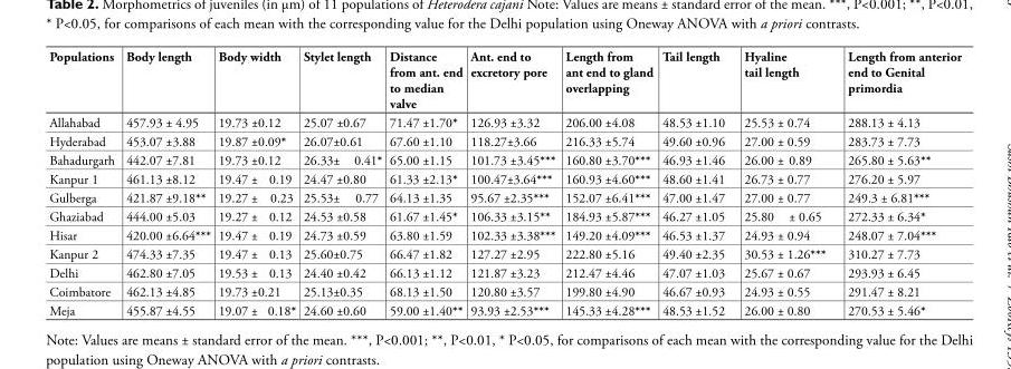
<table><thead><tr><td>Populations</td><td>Body length</td><td>Body width</td><td>Stylet length</td><td>Distance from ant. end to median valve</td><td>Ant. end to excretory pore</td><td>Length from ant end to gland overlapping</td><td>Tail length</td><td>Hyaline tail length</td><td>Length from anterior end to Genital primordia</td></tr></thead><tbody><tr><td>Allahabad</td><td>457.93 ± 4.95</td><td>19.73 ±0.12</td><td>25.07 ±0.67</td><td>71.47 ±1.70*</td><td>126.93 ±3.32</td><td>206.00 ±4.08</td><td>48.53 ±1.10</td><td>25.53 ± 0.74</td><td>288.13 ± 4.13</td></tr><tr><td>Hyderabad</td><td>453.07 ±3.88</td><td>19.87 ±0.09*</td><td>26.07±0.61</td><td>67.60 ±1.10</td><td>118.27±3.66</td><td>216.33 ±5.74</td><td>49.60 ±0.96</td><td>27.00 ± 0.59</td><td>283.73 ± 7.73</td></tr><tr><td>Bahadurgarh</td><td>442.07 ±7.81</td><td>19.73 ±0.12</td><td>26.33± 0.41*</td><td>65.00 ±1.15</td><td>101.73 ±3.45***</td><td>160.80 ±3.70***</td><td>46.93 ±1.46</td><td>26.00 ± 0.89</td><td>265.80 ± 5.63**</td></tr><tr><td>Kanpur 1</td><td>461.13 ±8.12</td><td>19.47 ± 0.19</td><td>24.47 ±0.80</td><td>61.33 ±2.13*</td><td>100.47±3.64***</td><td>160.93 ±4.60***</td><td>48.60 ±1.41</td><td>26.73 ± 0.77</td><td>276.20 ± 5.97</td></tr><tr><td>Gulberga</td><td>421.87 ±9.18**</td><td>19.27 ± 0.23</td><td>25.53± 0.77</td><td>64.13 ±1.35</td><td>95.67 ±2.35***</td><td>152.07 ±6.41***</td><td>47.00 ±1.47</td><td>27.00 ± 0.77</td><td>249.3 ± 6.81***</td></tr><tr><td>Ghaziabad</td><td>444.00 ±5.03</td><td>19.27 ± 0.12</td><td>24.53 ±0.58</td><td>61.67 ±1.45*</td><td>106.33 ±3.15**</td><td>184.93 ±5.87***</td><td>46.27 ±1.05</td><td>25.80 ± 0.65</td><td>272.33 ± 6.34*</td></tr><tr><td>Hisar</td><td>420.00 ±6.64***</td><td>19.47 ± 0.19</td><td>24.73 ±0.59</td><td>63.80 ±1.59</td><td>102.33 ±3.38***</td><td>149.20 ±4.09***</td><td>46.53 ±1.37</td><td>24.93 ± 0.94</td><td>248.07 ± 7.04***</td></tr><tr><td>Kanpur 2</td><td>474.33 ±7.35</td><td>19.47 ± 0.13</td><td>25.60±0.75</td><td>66.47 ±1.82</td><td>127.27 ±2.95</td><td>222.80 ±5.16</td><td>49.40 ±2.35</td><td>30.53 ± 1.26***</td><td>310.27 ± 7.73</td></tr><tr><td>Delhi</td><td>462.80 ±7.05</td><td>19.53 ± 0.13</td><td>24.40 ±0.42</td><td>66.13 ±1.12</td><td>121.87 ±3.23</td><td>212.47 ±4.46</td><td>47.07 ±1.03</td><td>25.67 ± 0.67</td><td>293.93 ± 6.45</td></tr><tr><td>Coimbatore</td><td>462.13 ±4.85</td><td>19.73 ±0.21</td><td>25.13±0.35</td><td>68.13 ±1.50</td><td>120.80 ±3.57</td><td>199.80 ±4.90</td><td>46.67 ±0.93</td><td>24.93 ± 0.55</td><td>291.47 ± 8.21</td></tr><tr><td>Meja</td><td>455.87 ±4.55</td><td>19.07 ± 0.18*</td><td>24.60 ±0.60</td><td>59.00 ±1.40**</td><td>93.93 ±2.53***</td><td>145.33 ±4.28***</td><td>48.53 ±1.52</td><td>26.00 ± 0.80</td><td>270.53 ± 5.46*</td></tr></tbody></table>